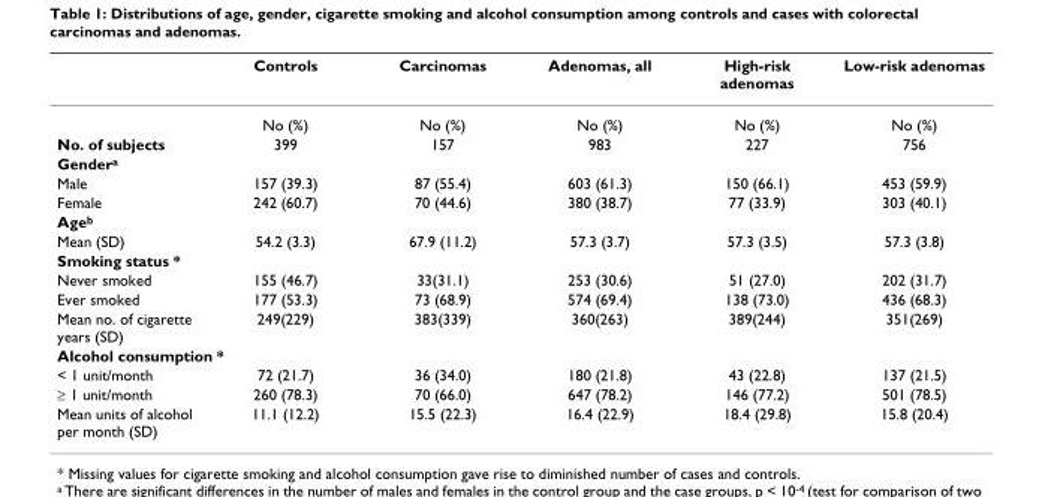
<table><thead><tr><td></td><td>Controls</td><td>Carcinomas</td><td>Adenomas, all</td><td>High-risk adenomas</td><td>Low-risk adenomas</td></tr></thead><tbody><tr><td></td><td>No (%)</td><td>No (%)</td><td>No (%)</td><td>No (%)</td><td>No (%)</td></tr><tr><td>No. of subjects</td><td>399</td><td>157</td><td>983</td><td>227</td><td>756</td></tr><tr><td colspan="6">Gendera</td></tr><tr><td>Male</td><td>157 (39.3)</td><td>87 (55.4)</td><td>603 (61.3)</td><td>150 (66.1)</td><td>453 (59.9)</td></tr><tr><td>Female</td><td>242 (60.7)</td><td>70 (44.6)</td><td>380 (38.7)</td><td>77 (33.9)</td><td>303 (40.1)</td></tr><tr><td colspan="6">Ageb</td></tr><tr><td>Mean (SD)</td><td>54.2 (3.3)</td><td>67.9 (11.2)</td><td>57.3 (3.7)</td><td>57.3 (3.5)</td><td>57.3 (3.8)</td></tr><tr><td colspan="6">Smoking status *</td></tr><tr><td>Never smoked</td><td>155 (46.7)</td><td>33(31.1)</td><td>253 (30.6)</td><td>51 (27.0)</td><td>202 (31.7)</td></tr><tr><td>Ever smoked</td><td>177 (53.3)</td><td>73 (68.9)</td><td>574 (69.4)</td><td>138 (73.0)</td><td>436 (68.3)</td></tr><tr><td>Mean no. of cigarette years (SD)</td><td>249(229)</td><td>383(339)</td><td>360(263)</td><td>389(244)</td><td>351(269)</td></tr><tr><td colspan="6">Alcohol consumption *</td></tr><tr><td>&lt; 1 unit/month</td><td>72 (21.7)</td><td>36 (34.0)</td><td>180 (21.8)</td><td>43 (22.8)</td><td>137 (21.5)</td></tr><tr><td>≥ 1 unit/month</td><td>260 (78.3)</td><td>70 (66.0)</td><td>647 (78.2)</td><td>146 (77.2)</td><td>501 (78.5)</td></tr><tr><td>Mean units of alcohol per month (SD)</td><td>11.1 (12.2)</td><td>15.5 (22.3)</td><td>16.4 (22.9)</td><td>18.4 (29.8)</td><td>15.8 (20.4)</td></tr></tbody></table>